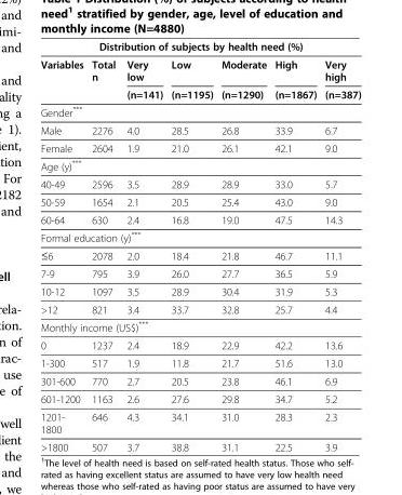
<table><thead><tr><td colspan="7">Distribution of subjects by health need (%)</td></tr><tr><td rowspan="2">Variables</td><td rowspan="2">Total n</td><td rowspan="2">Very low (n=141)</td><td rowspan="2">Low (n=1195)</td><td rowspan="2">Moderate (n=1290)</td><td rowspan="2">High (n=1867)</td><td rowspan="2">Very high (n=387)</td></tr><tr></tr></thead><tbody><tr><td colspan="7">Gender***</td></tr><tr><td>Male</td><td>2276</td><td>4.0</td><td>28.5</td><td>26.8</td><td>33.9</td><td>6.7</td></tr><tr><td>Female</td><td>2604</td><td>1.9</td><td>21.0</td><td>26.1</td><td>42.1</td><td>9.0</td></tr><tr><td colspan="7">Age (y)***</td></tr><tr><td>40-49</td><td>2596</td><td>3.5</td><td>28.9</td><td>28.9</td><td>33.0</td><td>5.7</td></tr><tr><td>50-59</td><td>1654</td><td>2.1</td><td>20.5</td><td>25.4</td><td>43.0</td><td>9.0</td></tr><tr><td>60-64</td><td>630</td><td>2.4</td><td>16.8</td><td>19.0</td><td>47.5</td><td>14.3</td></tr><tr><td colspan="7">Formal education (y)***</td></tr><tr><td>≤6</td><td>2078</td><td>2.0</td><td>18.4</td><td>21.8</td><td>46.7</td><td>11.1</td></tr><tr><td>7-9</td><td>795</td><td>3.9</td><td>26.0</td><td>27.7</td><td>36.5</td><td>5.9</td></tr><tr><td>10-12</td><td>1097</td><td>3.5</td><td>28.9</td><td>30.4</td><td>31.9</td><td>5.3</td></tr><tr><td>&gt;12</td><td>821</td><td>3.4</td><td>33.7</td><td>32.8</td><td>25.7</td><td>4.4</td></tr><tr><td colspan="7">Monthly income (US$)***</td></tr><tr><td>0</td><td>1237</td><td>2.4</td><td>18.9</td><td>22.9</td><td>42.2</td><td>13.6</td></tr><tr><td>1-300</td><td>517</td><td>1.9</td><td>11.8</td><td>21.7</td><td>51.6</td><td>13.0</td></tr><tr><td>301-600</td><td>770</td><td>2.7</td><td>20.5</td><td>23.8</td><td>46.1</td><td>6.9</td></tr><tr><td>601-1200</td><td>1163</td><td>2.6</td><td>27.6</td><td>29.8</td><td>34.7</td><td>5.2</td></tr><tr><td>1201- 1800</td><td>646</td><td>4.3</td><td>34.1</td><td>31.0</td><td>28.3</td><td>2.3</td></tr><tr><td>&gt;1800</td><td>507</td><td>3.7</td><td>38.8</td><td>31.1</td><td>22.5</td><td>3.9</td></tr></tbody></table>